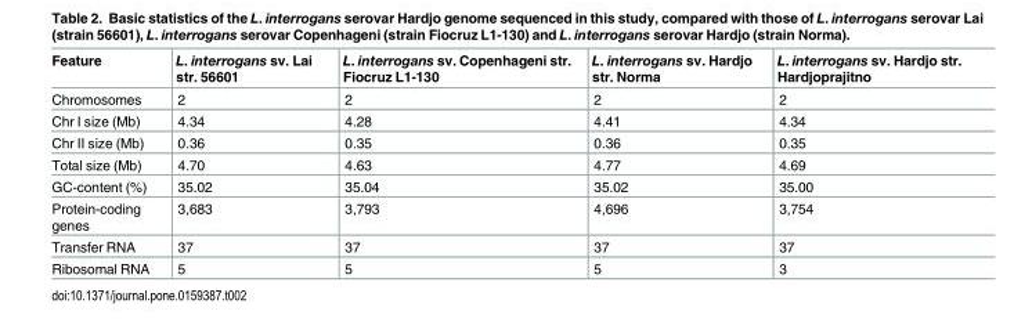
<table><thead><tr><td>Feature</td><td>L. interrogans sv. Lai str. 56601</td><td>L. interrogans sv. Copenhageni str. Fiocruz L1-130</td><td>L. interrogans sv. Hardjo str. Norma</td><td>L. interrogans sv. Hardjo str. Hardjoprajitno</td></tr></thead><tbody><tr><td>Chromosomes</td><td>2</td><td>2</td><td>2</td><td>2</td></tr><tr><td>Chr I size (Mb)</td><td>4.34</td><td>4.28</td><td>4.41</td><td>4.34</td></tr><tr><td>Chr II size (Mb)</td><td>0.36</td><td>0.35</td><td>0.36</td><td>0.35</td></tr><tr><td>Total size (Mb)</td><td>4.70</td><td>4.63</td><td>4.77</td><td>4.69</td></tr><tr><td>GC-content (%)</td><td>35.02</td><td>35.04</td><td>35.02</td><td>35.00</td></tr><tr><td>Protein-coding genes</td><td>3,683</td><td>3,793</td><td>4,696</td><td>3,754</td></tr><tr><td>Transfer RNA</td><td>37</td><td>37</td><td>37</td><td>37</td></tr><tr><td>Ribosomal RNA</td><td>5</td><td>5</td><td>5</td><td>3</td></tr></tbody></table>